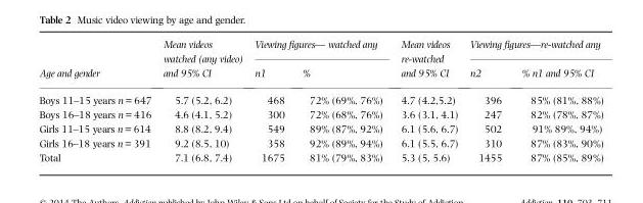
<table><thead><tr><td rowspan="2">Age and gender</td><td rowspan="2">Mean videos watched (any video) and 95% CI</td><td colspan="2">Viewing figures— watched any</td><td rowspan="2">Mean videos re-watched and 95% CI</td><td colspan="2">Viewing figures—re-watched any</td></tr><tr><td>n1</td><td>%</td><td>n2</td><td>% n1 and 95% CI</td></tr></thead><tbody><tr><td>Boys 11–15 years n = 647</td><td>5.7 (5.2, 6.2)</td><td>468</td><td>72% (69%, 76%)</td><td>4.7 (4.2,5.2)</td><td>396</td><td>85% (81%, 88%)</td></tr><tr><td>Boys 16–18 years n = 416</td><td>4.6 (4.1, 5.2)</td><td>300</td><td>72% (68%, 76%)</td><td>3.6 (3.1, 4.1)</td><td>247</td><td>82% (78%, 87%)</td></tr><tr><td>Girls 11–15 years n = 614</td><td>8.8 (8.2, 9.4)</td><td>549</td><td>89% (87%, 92%)</td><td>6.1 (5.6, 6.7)</td><td>502</td><td>91% 89%, 94%)</td></tr><tr><td>Girls 16–18 years n = 391</td><td>9.2 (8.5, 10)</td><td>358</td><td>92% (89%, 94%)</td><td>6.1 (5.5, 6.7)</td><td>310</td><td>87% (83%, 90%)</td></tr><tr><td>Total</td><td>7.1 (6.8, 7.4)</td><td>1675</td><td>81% (79%, 83%)</td><td>5.3 (5, 5.6)</td><td>1455</td><td>87% (85%, 89%)</td></tr></tbody></table>